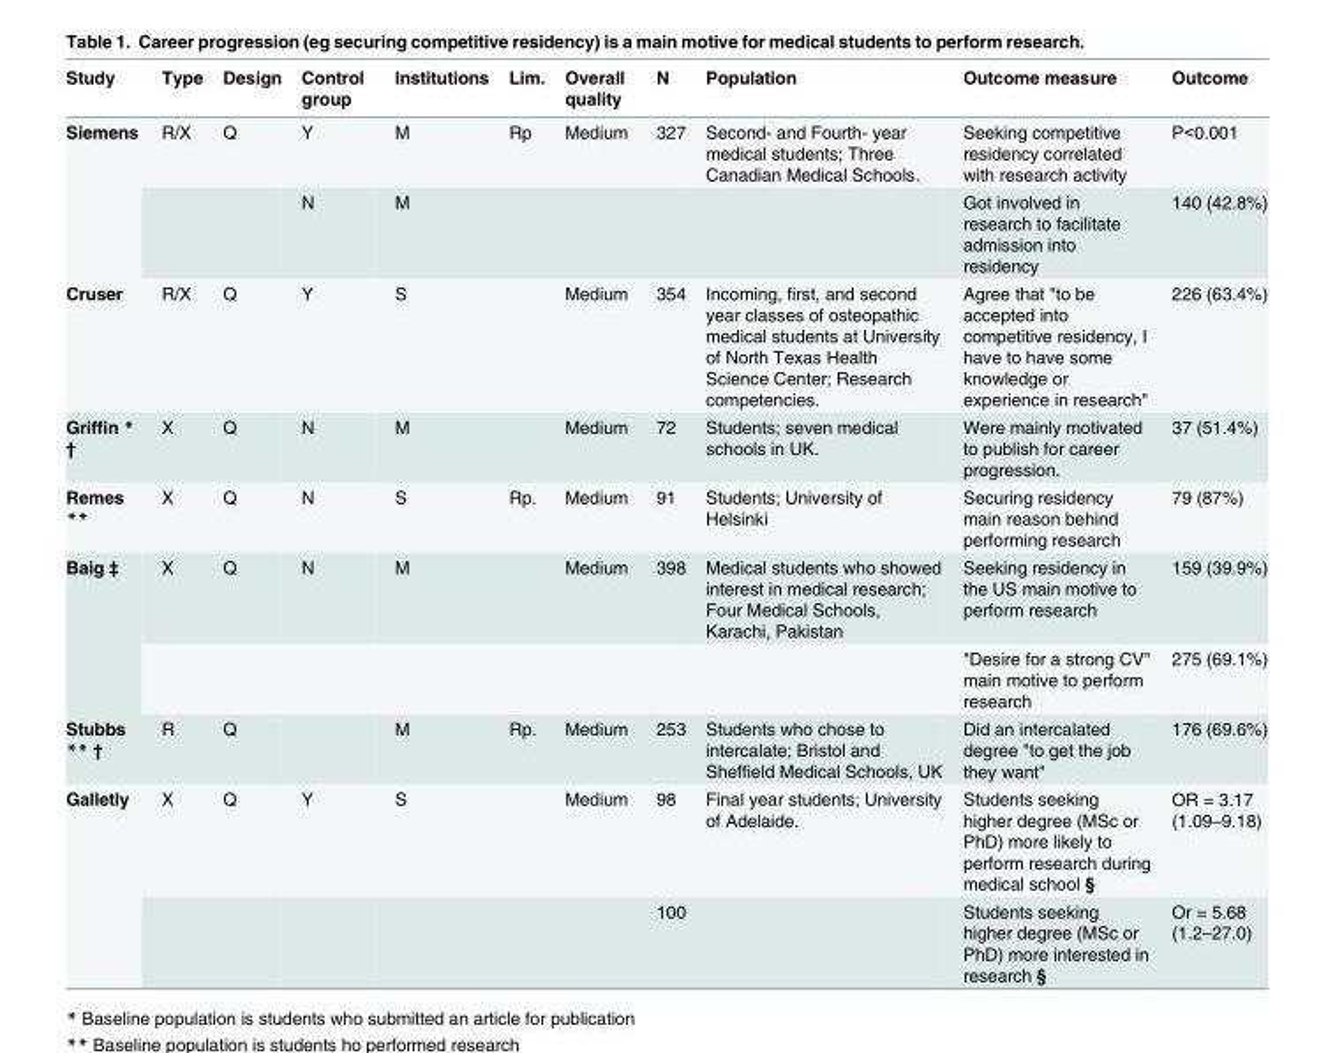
<table><thead><tr><td>Study</td><td>Type</td><td>Design</td><td>Control group</td><td>Institutions</td><td>Lim.</td><td>Overall quality</td><td>N</td><td>Population</td><td>Outcome measure</td><td>Outcome</td></tr></thead><tbody><tr><td rowspan="2">Siemens</td><td>R/X</td><td>Q</td><td>Y</td><td>M</td><td>Rp</td><td>Medium</td><td>327</td><td>Second- and Fourth- year medical students; Three Canadian Medical Schools.</td><td>Seeking competitive residency correlated with research activity</td><td>P&lt;0.001</td></tr><tr><td></td><td></td><td>N</td><td>M</td><td></td><td></td><td></td><td></td><td>Got involved in research to facilitate admission into residency</td><td>140 (42.8%)</td></tr><tr><td>Cruser</td><td>R/X</td><td>Q</td><td>Y</td><td>S</td><td></td><td>Medium</td><td>354</td><td>Incoming, first, and second year classes of osteopathic medical students at University of North Texas Health Science Center; Research competencies.</td><td>Agree that &quot;to be accepted into competitive residency, I have to have some knowledge or experience in research&quot;</td><td>226 (63.4%)</td></tr><tr><td>Griffin * †</td><td>X</td><td>Q</td><td>N</td><td>M</td><td></td><td>Medium</td><td>72</td><td>Students; seven medical schools in UK.</td><td>Were mainly motivated to publish for career progression.</td><td>37 (51.4%)</td></tr><tr><td>Remes **</td><td>X</td><td>Q</td><td>N</td><td>S</td><td>Rp.</td><td>Medium</td><td>91</td><td>Students; University of Helsinki</td><td>Securing residency main reason behind performing research</td><td>79 (87%)</td></tr><tr><td rowspan="2">Baig ‡</td><td>X</td><td>Q</td><td>N</td><td>M</td><td></td><td>Medium</td><td>398</td><td>Medical students who showed interest in medical research; Four Medical Schools, Karachi, Pakistan</td><td>Seeking residency in the US main motive to perform research</td><td>159 (39.9%)</td></tr><tr><td></td><td></td><td></td><td></td><td></td><td></td><td></td><td></td><td>&quot;Desire for a strong CV&quot; main motive to perform research</td><td>275 (69.1%)</td></tr><tr><td>Stubbs ** †</td><td>R</td><td>Q</td><td></td><td>M</td><td>Rp.</td><td>Medium</td><td>253</td><td>Students who chose to intercalate; Bristol and Sheffield Medical Schools, UK</td><td>Did an intercalated degree &quot;to get the job they want&quot;</td><td>176 (69.6%)</td></tr><tr><td rowspan="2">Galletly</td><td>X</td><td>Q</td><td>Y</td><td>S</td><td></td><td>Medium</td><td>98</td><td>Final year students; University of Adelaide.</td><td>Students seeking higher degree (MSc or PhD) more likely to perform research during medical school §</td><td>OR = 3.17 (1.09–9.18)</td></tr><tr><td></td><td></td><td></td><td></td><td></td><td></td><td>100</td><td></td><td>Students seeking higher degree (MSc or PhD) more interested in research §</td><td>Or = 5.68 (1.2–27.0)</td></tr></tbody></table>